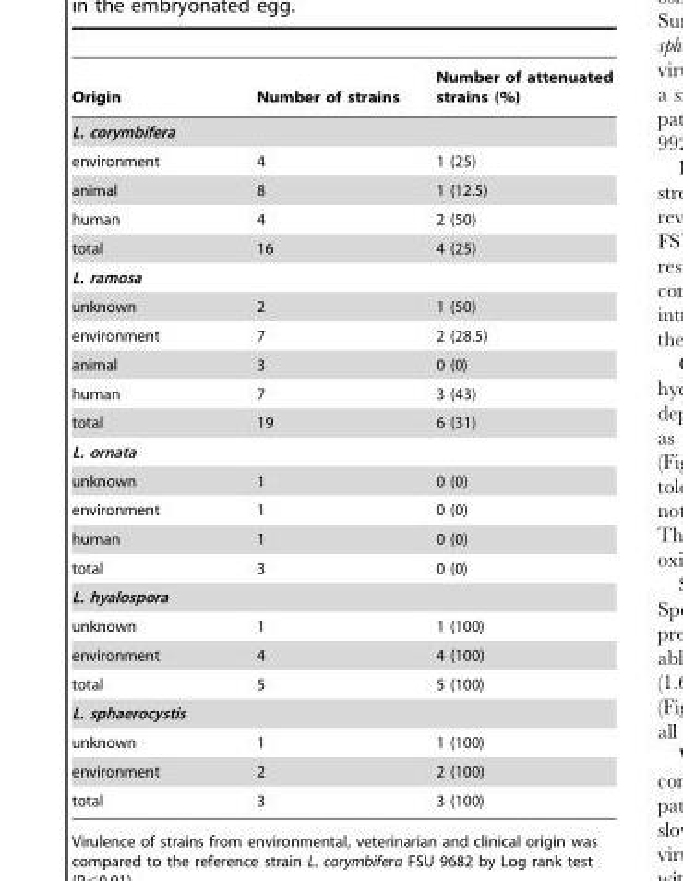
<table><thead><tr><td>Origin</td><td>Number of strains</td><td>Number of attenuated strains (%)</td></tr></thead><tbody><tr><td colspan="3">L. corymbifera</td></tr><tr><td>environment</td><td>4</td><td>1 (25)</td></tr><tr><td>animal</td><td>8</td><td>1 (12.5)</td></tr><tr><td>human</td><td>4</td><td>2 (50)</td></tr><tr><td>total</td><td>16</td><td>4 (25)</td></tr><tr><td colspan="3">L. ramosa</td></tr><tr><td>unknown</td><td>2</td><td>1 (50)</td></tr><tr><td>environment</td><td>7</td><td>2 (28.5)</td></tr><tr><td>animal</td><td>3</td><td>0 (0)</td></tr><tr><td>human</td><td>7</td><td>3 (43)</td></tr><tr><td>total</td><td>19</td><td>6 (31)</td></tr><tr><td colspan="3">L. ornata</td></tr><tr><td>unknown</td><td>1</td><td>0 (0)</td></tr><tr><td>environment</td><td>1</td><td>0 (0)</td></tr><tr><td>human</td><td>1</td><td>0 (0)</td></tr><tr><td>total</td><td>3</td><td>0 (0)</td></tr><tr><td colspan="3">L. hyalospora</td></tr><tr><td>unknown</td><td>1</td><td>1 (100)</td></tr><tr><td>environment</td><td>4</td><td>4 (100)</td></tr><tr><td>total</td><td>5</td><td>5 (100)</td></tr><tr><td colspan="3">L. sphaerocystis</td></tr><tr><td>unknown</td><td>1</td><td>1 (100)</td></tr><tr><td>environment</td><td>2</td><td>2 (100)</td></tr><tr><td>total</td><td>3</td><td>3 (100)</td></tr></tbody></table>